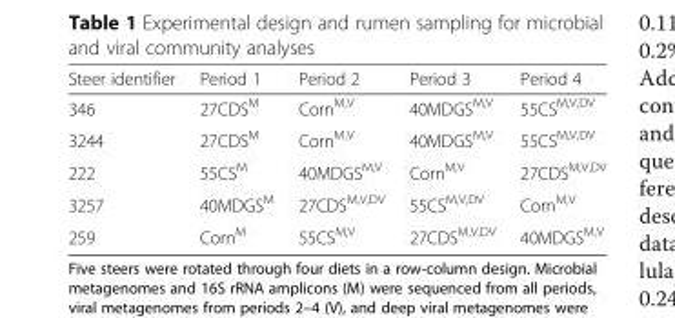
<table><thead><tr><td>Steer identifier</td><td>Period 1</td><td>Period 2</td><td>Period 3</td><td>Period 4</td></tr></thead><tbody><tr><td>346</td><td>27CDS<sup>M</sup></td><td>Corn<sup>M,V</sup></td><td>40MDGS<sup>M,V</sup></td><td>55CS<sup>M,V,DV</sup></td></tr><tr><td>3244</td><td>27CDS<sup>M</sup></td><td>Corn<sup>M,V</sup></td><td>40MDGS<sup>M,V</sup></td><td>55CS<sup>M,V,DV</sup></td></tr><tr><td>222</td><td>55CS<sup>M</sup></td><td>40MDGS<sup>M,V</sup></td><td>Corn<sup>M,V</sup></td><td>27CDS<sup>M,V,DV</sup></td></tr><tr><td>3257</td><td>40MDGS<sup>M</sup></td><td>27CDS<sup>M,V,DV</sup></td><td>55CS<sup>M,V,DV</sup></td><td>Corn<sup>M,V</sup></td></tr><tr><td>259</td><td>Corn<sup>M</sup></td><td>55CS<sup>M,V</sup></td><td>27CDS<sup>M,V,DV</sup></td><td>40MDGS<sup>M,V</sup></td></tr></tbody></table>